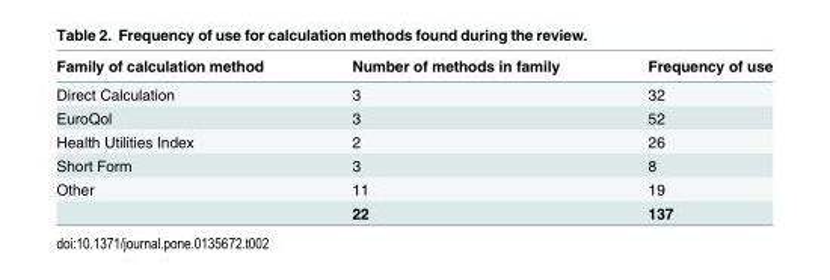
<table><thead><tr><td>Family of calculation method</td><td>Number of methods in family</td><td>Frequency of use</td></tr></thead><tbody><tr><td>Direct Calculation</td><td>3</td><td>32</td></tr><tr><td>EuroQol</td><td>3</td><td>52</td></tr><tr><td>Health Utilities Index</td><td>2</td><td>26</td></tr><tr><td>Short Form</td><td>3</td><td>8</td></tr><tr><td rowspan="2">Other</td><td>11</td><td>19</td></tr><tr><td>22</td><td>137</td></tr></tbody></table>